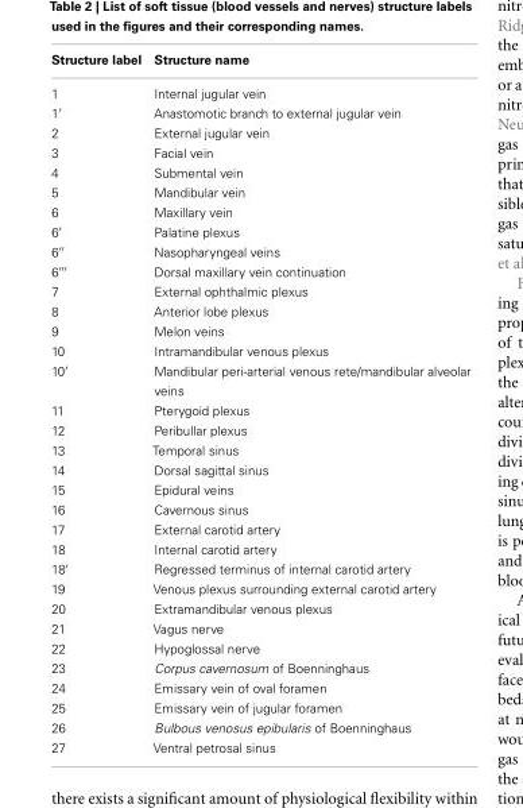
<table><thead><tr><td>Structure label</td><td>Structure name</td></tr></thead><tbody><tr><td>1</td><td>Internal jugular vein</td></tr><tr><td>1′</td><td>Anastomotic branch to external jugular vein</td></tr><tr><td>2</td><td>External jugular vein</td></tr><tr><td>3</td><td>Facial vein</td></tr><tr><td>4</td><td>Submental vein</td></tr><tr><td>5</td><td>Mandibular vein</td></tr><tr><td>6</td><td>Maxillary vein</td></tr><tr><td>6′</td><td>Palatine plexus</td></tr><tr><td>6′′</td><td>Nasopharyngeal veins</td></tr><tr><td>6′′′</td><td>Dorsal maxillary vein continuation</td></tr><tr><td>7</td><td>External ophthalmic plexus</td></tr><tr><td>8</td><td>Anterior lobe plexus</td></tr><tr><td>9</td><td>Melon veins</td></tr><tr><td>10</td><td>Intramandibular venous plexus</td></tr><tr><td>10′</td><td>Mandibular peri-arterial venous rete/mandibular alveolar veins</td></tr><tr><td>11</td><td>Pterygoid plexus</td></tr><tr><td>12</td><td>Peribullar plexus</td></tr><tr><td>13</td><td>Temporal sinus</td></tr><tr><td>14</td><td>Dorsal sagittal sinus</td></tr><tr><td>15</td><td>Epidural veins</td></tr><tr><td>16</td><td>Cavernous sinus</td></tr><tr><td>17</td><td>External carotid artery</td></tr><tr><td>18</td><td>Internal carotid artery</td></tr><tr><td>18′</td><td>Regressed terminus of internal carotid artery</td></tr><tr><td>19</td><td>Venous plexus surrounding external carotid artery</td></tr><tr><td>20</td><td>Extramandibular venous plexus</td></tr><tr><td>21</td><td>Vagus nerve</td></tr><tr><td>22</td><td>Hypoglossal nerve</td></tr><tr><td>23</td><td>Corpus cavernosum of Boenninghaus</td></tr><tr><td>24</td><td>Emissary vein of oval foramen</td></tr><tr><td>25</td><td>Emissary vein of jugular foramen</td></tr><tr><td>26</td><td>Bulbous venosus epibularis of Boenninghaus</td></tr><tr><td>27</td><td>Ventral petrosal sinus</td></tr></tbody></table>